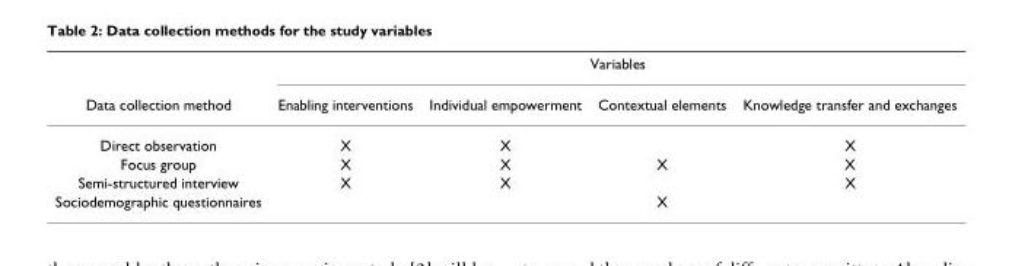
<table><thead><tr><td rowspan="2">Data collection method</td><td colspan="4">Variables</td></tr><tr><td>Enabling interventions</td><td>Individual empowerment</td><td>Contextual elements</td><td>Knowledge transfer and exchanges</td></tr></thead><tbody><tr><td>Direct observation</td><td>X</td><td>X</td><td></td><td>X</td></tr><tr><td>Focus group</td><td>X</td><td>X</td><td>X</td><td>X</td></tr><tr><td>Semi-structured interview</td><td>X</td><td>X</td><td></td><td>X</td></tr><tr><td>Sociodemographic questionnaires</td><td></td><td></td><td>X</td><td></td></tr></tbody></table>